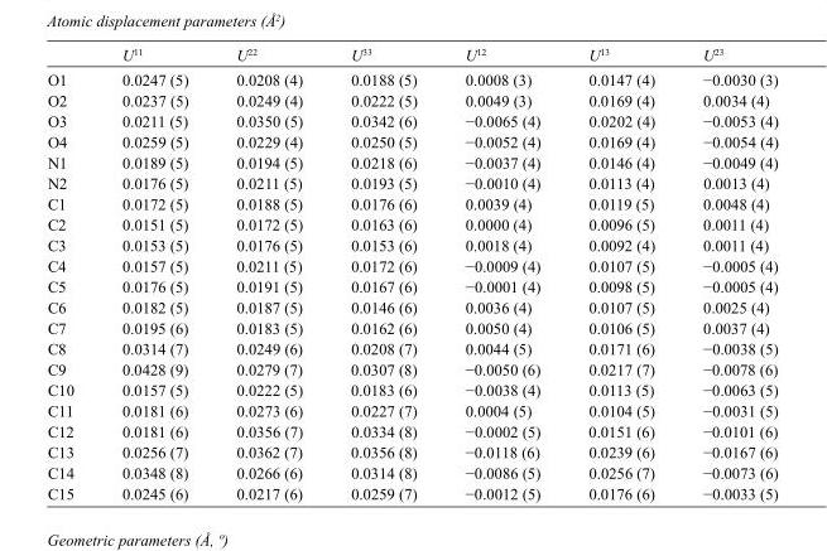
<table><thead><tr><td></td><td>U<sup>11</sup></td><td>U<sup>22</sup></td><td>U<sup>33</sup></td><td>U<sup>12</sup></td><td>U<sup>13</sup></td><td>U<sup>23</sup></td></tr></thead><tbody><tr><td>O1</td><td>0.0247 (5)</td><td>0.0208 (4)</td><td>0.0188 (5)</td><td>0.0008 (3)</td><td>0.0147 (4)</td><td>−0.0030 (3)</td></tr><tr><td>O2</td><td>0.0237 (5)</td><td>0.0249 (4)</td><td>0.0222 (5)</td><td>0.0049 (3)</td><td>0.0169 (4)</td><td>0.0034 (4)</td></tr><tr><td>O3</td><td>0.0211 (5)</td><td>0.0350 (5)</td><td>0.0342 (6)</td><td>−0.0065 (4)</td><td>0.0202 (4)</td><td>−0.0053 (4)</td></tr><tr><td>O4</td><td>0.0259 (5)</td><td>0.0229 (4)</td><td>0.0250 (5)</td><td>−0.0052 (4)</td><td>0.0169 (4)</td><td>−0.0054 (4)</td></tr><tr><td>N1</td><td>0.0189 (5)</td><td>0.0194 (5)</td><td>0.0218 (6)</td><td>−0.0037 (4)</td><td>0.0146 (4)</td><td>−0.0049 (4)</td></tr><tr><td>N2</td><td>0.0176 (5)</td><td>0.0211 (5)</td><td>0.0193 (5)</td><td>−0.0010 (4)</td><td>0.0113 (4)</td><td>0.0013 (4)</td></tr><tr><td>C1</td><td>0.0172 (5)</td><td>0.0188 (5)</td><td>0.0176 (6)</td><td>0.0039 (4)</td><td>0.0119 (5)</td><td>0.0048 (4)</td></tr><tr><td>C2</td><td>0.0151 (5)</td><td>0.0172 (5)</td><td>0.0163 (6)</td><td>0.0000 (4)</td><td>0.0096 (5)</td><td>0.0011 (4)</td></tr><tr><td>C3</td><td>0.0153 (5)</td><td>0.0176 (5)</td><td>0.0153 (6)</td><td>0.0018 (4)</td><td>0.0092 (4)</td><td>0.0011 (4)</td></tr><tr><td>C4</td><td>0.0157 (5)</td><td>0.0211 (5)</td><td>0.0172 (6)</td><td>−0.0009 (4)</td><td>0.0107 (5)</td><td>−0.0005 (4)</td></tr><tr><td>C5</td><td>0.0176 (5)</td><td>0.0191 (5)</td><td>0.0167 (6)</td><td>−0.0001 (4)</td><td>0.0098 (5)</td><td>−0.0005 (4)</td></tr><tr><td>C6</td><td>0.0182 (5)</td><td>0.0187 (5)</td><td>0.0146 (6)</td><td>0.0036 (4)</td><td>0.0107 (5)</td><td>0.0025 (4)</td></tr><tr><td>C7</td><td>0.0195 (6)</td><td>0.0183 (5)</td><td>0.0162 (6)</td><td>0.0050 (4)</td><td>0.0106 (5)</td><td>0.0037 (4)</td></tr><tr><td>C8</td><td>0.0314 (7)</td><td>0.0249 (6)</td><td>0.0208 (7)</td><td>0.0044 (5)</td><td>0.0171 (6)</td><td>−0.0038 (5)</td></tr><tr><td>C9</td><td>0.0428 (9)</td><td>0.0279 (7)</td><td>0.0307 (8)</td><td>−0.0050 (6)</td><td>0.0217 (7)</td><td>−0.0078 (6)</td></tr><tr><td>C10</td><td>0.0157 (5)</td><td>0.0222 (5)</td><td>0.0183 (6)</td><td>−0.0038 (4)</td><td>0.0113 (5)</td><td>−0.0063 (5)</td></tr><tr><td>C11</td><td>0.0181 (6)</td><td>0.0273 (6)</td><td>0.0227 (7)</td><td>0.0004 (5)</td><td>0.0104 (5)</td><td>−0.0031 (5)</td></tr><tr><td>C12</td><td>0.0181 (6)</td><td>0.0356 (7)</td><td>0.0334 (8)</td><td>−0.0002 (5)</td><td>0.0151 (6)</td><td>−0.0101 (6)</td></tr><tr><td>C13</td><td>0.0256 (7)</td><td>0.0362 (7)</td><td>0.0356 (8)</td><td>−0.0118 (6)</td><td>0.0239 (6)</td><td>−0.0167 (6)</td></tr><tr><td>C14</td><td>0.0348 (8)</td><td>0.0266 (6)</td><td>0.0314 (8)</td><td>−0.0086 (5)</td><td>0.0256 (7)</td><td>−0.0073 (6)</td></tr><tr><td>C15</td><td>0.0245 (6)</td><td>0.0217 (6)</td><td>0.0259 (7)</td><td>−0.0012 (5)</td><td>0.0176 (6)</td><td>−0.0033 (5)</td></tr></tbody></table>